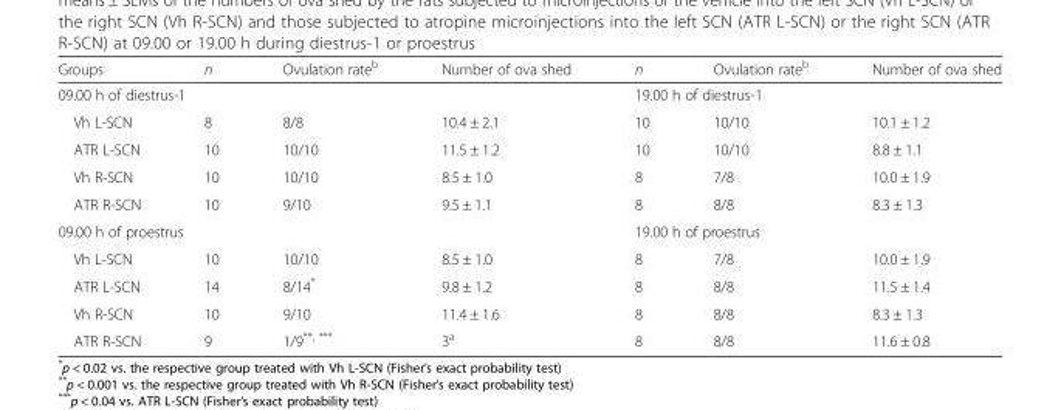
<table><thead><tr><td>Groups</td><td>n</td><td>Ovulation rate<sup>b</sup></td><td>Number of ova shed</td><td>n</td><td>Ovulation rate<sup>b</sup></td><td>Number of ova shed</td></tr></thead><tbody><tr><td colspan="4">09.00 h of diestrus-1</td><td colspan="3">19.00 h of diestrus-1</td></tr><tr><td>Vh L-SCN</td><td>8</td><td>8/8</td><td>10.4 ± 2.1</td><td>10</td><td>10/10</td><td>10.1 ± 1.2</td></tr><tr><td>ATR L-SCN</td><td>10</td><td>10/10</td><td>11.5 ± 1.2</td><td>10</td><td>10/10</td><td>8.8 ± 1.1</td></tr><tr><td>Vh R-SCN</td><td>10</td><td>10/10</td><td>8.5 ± 1.0</td><td>8</td><td>7/8</td><td>10.0 ± 1.9</td></tr><tr><td>ATR R-SCN</td><td>10</td><td>9/10</td><td>9.5 ± 1.1</td><td>8</td><td>8/8</td><td>8.3 ± 1.3</td></tr><tr><td colspan="4">09.00 h of proestrus</td><td colspan="3">19.00 h of proestrus</td></tr><tr><td>Vh L-SCN</td><td>10</td><td>10/10</td><td>8.5 ± 1.0</td><td>8</td><td>7/8</td><td>10.0 ± 1.9</td></tr><tr><td>ATR L-SCN</td><td>14</td><td>8/14*</td><td>9.8 ± 1.2</td><td>8</td><td>8/8</td><td>11.5 ± 1.4</td></tr><tr><td>Vh R-SCN</td><td>10</td><td>9/10</td><td>11.4 ± 1.6</td><td>8</td><td>8/8</td><td>8.3 ± 1.3</td></tr><tr><td>ATR R-SCN</td><td>9</td><td>1/9<sup>**, ***</sup></td><td>3<sup>a</sup></td><td>8</td><td>8/8</td><td>11.6 ± 0.8</td></tr></tbody></table>